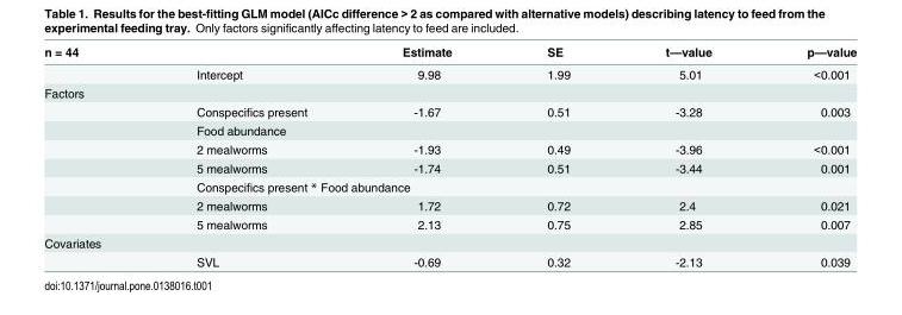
<table><thead><tr><td>n = 44</td><td></td><td>Estimate</td><td>SE</td><td>t—value</td><td>p—value</td></tr></thead><tbody><tr><td></td><td>Intercept</td><td>9.98</td><td>1.99</td><td>5.01</td><td>&lt;0.001</td></tr><tr><td colspan="6">Factors</td></tr><tr><td></td><td>Conspecifics present</td><td>-1.67</td><td>0.51</td><td>-3.28</td><td>0.003</td></tr><tr><td></td><td>Food abundance</td><td></td><td></td><td></td><td></td></tr><tr><td></td><td>2 mealworms</td><td>-1.93</td><td>0.49</td><td>-3.96</td><td>&lt;0.001</td></tr><tr><td></td><td>5 mealworms</td><td>-1.74</td><td>0.51</td><td>-3.44</td><td>0.001</td></tr><tr><td></td><td colspan="2">Conspecifics present * Food abundance</td><td></td><td></td><td></td></tr><tr><td></td><td>2 mealworms</td><td>1.72</td><td>0.72</td><td>2.4</td><td>0.021</td></tr><tr><td></td><td>5 mealworms</td><td>2.13</td><td>0.75</td><td>2.85</td><td>0.007</td></tr><tr><td colspan="6">Covariates</td></tr><tr><td></td><td>SVL</td><td>-0.69</td><td>0.32</td><td>-2.13</td><td>0.039</td></tr></tbody></table>